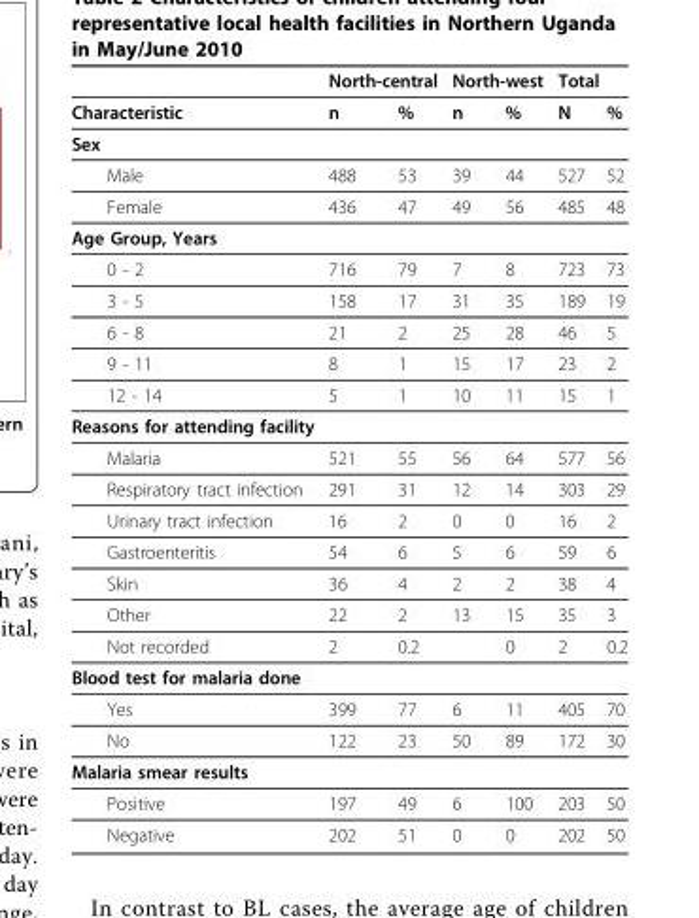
<table><thead><tr><td rowspan="2">Characteristic</td><td colspan="2">North-central</td><td colspan="2">North-west</td><td colspan="2">Total</td></tr><tr><td>n</td><td>%</td><td>n</td><td>%</td><td>N</td><td>%</td></tr></thead><tbody><tr><td colspan="7">Sex</td></tr><tr><td>Male</td><td>488</td><td>53</td><td>39</td><td>44</td><td>527</td><td>52</td></tr><tr><td>Female</td><td>436</td><td>47</td><td>49</td><td>56</td><td>485</td><td>48</td></tr><tr><td colspan="7">Age Group, Years</td></tr><tr><td>0 - 2</td><td>716</td><td>79</td><td>7</td><td>8</td><td>723</td><td>73</td></tr><tr><td>3 - 5</td><td>158</td><td>17</td><td>31</td><td>35</td><td>189</td><td>19</td></tr><tr><td>6 - 8</td><td>21</td><td>2</td><td>25</td><td>28</td><td>46</td><td>5</td></tr><tr><td>9 - 11</td><td>8</td><td>1</td><td>15</td><td>17</td><td>23</td><td>2</td></tr><tr><td>12 - 14</td><td>5</td><td>1</td><td>10</td><td>11</td><td>15</td><td>1</td></tr><tr><td colspan="7">Reasons for attending facility</td></tr><tr><td>Malaria</td><td>521</td><td>55</td><td>56</td><td>64</td><td>577</td><td>56</td></tr><tr><td>Respiratory tract infection</td><td>291</td><td>31</td><td>12</td><td>14</td><td>303</td><td>29</td></tr><tr><td>Urinary tract infection</td><td>16</td><td>2</td><td>0</td><td>0</td><td>16</td><td>2</td></tr><tr><td>Gastroenteritis</td><td>54</td><td>6</td><td>5</td><td>6</td><td>59</td><td>6</td></tr><tr><td>Skin</td><td>36</td><td>4</td><td>2</td><td>2</td><td>38</td><td>4</td></tr><tr><td>Other</td><td>22</td><td>2</td><td>13</td><td>15</td><td>35</td><td>3</td></tr><tr><td>Not recorded</td><td>2</td><td>0.2</td><td></td><td>0</td><td>2</td><td>0.2</td></tr><tr><td colspan="7">Blood test for malaria done</td></tr><tr><td>Yes</td><td>399</td><td>77</td><td>6</td><td>11</td><td>405</td><td>70</td></tr><tr><td>No</td><td>122</td><td>23</td><td>50</td><td>89</td><td>172</td><td>30</td></tr><tr><td colspan="7">Malaria smear results</td></tr><tr><td>Positive</td><td>197</td><td>49</td><td>6</td><td>100</td><td>203</td><td>50</td></tr><tr><td>Negative</td><td>202</td><td>51</td><td>0</td><td>0</td><td>202</td><td>50</td></tr></tbody></table>